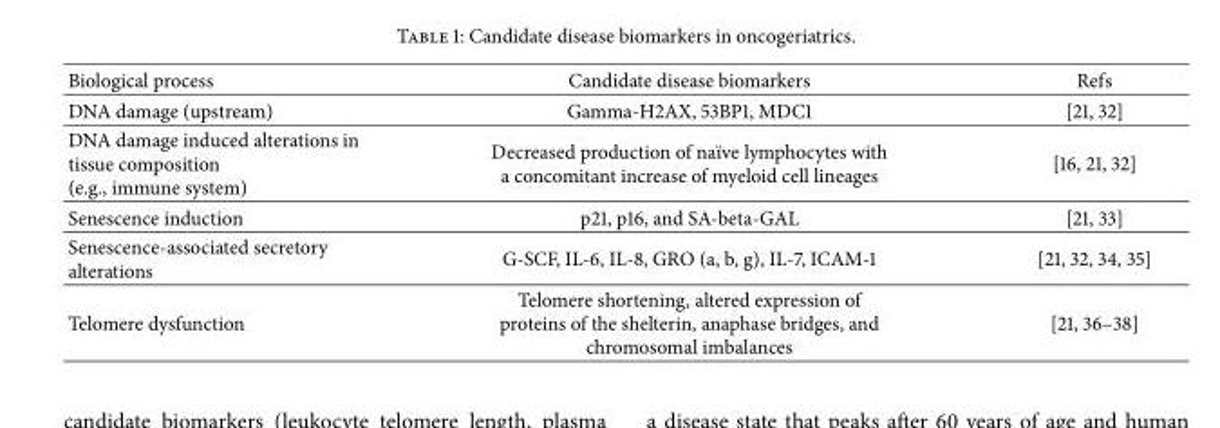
<table><thead><tr><td>Biological process</td><td>Candidate disease biomarkers</td><td>Refs</td></tr></thead><tbody><tr><td>DNA damage (upstream)</td><td>Gamma-H2AX, 53BP1, MDC1</td><td>[21, 32]</td></tr><tr><td>DNA damage induced alterations in tissue composition (e.g., immune system)</td><td>Decreased production of na¨ıve lymphocytes with a concomitant increase of myeloid cell lineages</td><td>[16, 21, 32]</td></tr><tr><td>Senescence induction</td><td>p21, p16, and SA-beta-GAL</td><td>[21, 33]</td></tr><tr><td>Senescence-associated secretory alterations</td><td>G-SCF, IL-6, IL-8, GRO (a, b, g), IL-7, ICAM-1</td><td>[21, 32, 34, 35]</td></tr><tr><td>Telomere dysfunction</td><td>Telomere shortening, altered expression of proteins of the shelterin, anaphase bridges, and chromosomal imbalances</td><td>[21, 36–38]</td></tr></tbody></table>